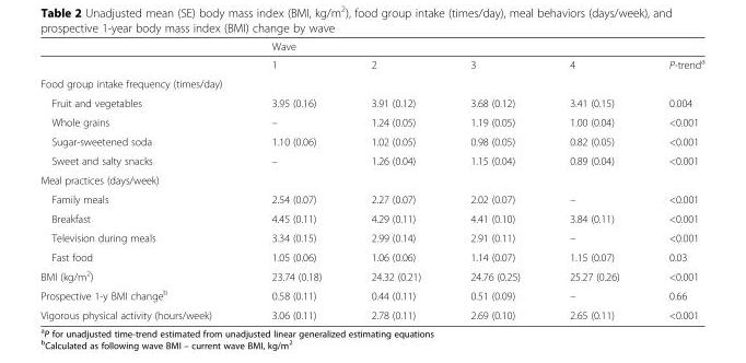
<table><thead><tr><td rowspan="2"></td><td colspan="4">Wave</td><td rowspan="2">P-trend<sup>a</sup></td></tr><tr><td>1</td><td>2</td><td>3</td><td>4</td></tr></thead><tbody><tr><td colspan="6">Food group intake frequency (times/day)</td></tr><tr><td>Fruit and vegetables</td><td>3.95 (0.16)</td><td>3.91 (0.12)</td><td>3.68 (0.12)</td><td>3.41 (0.15)</td><td>0.004</td></tr><tr><td>Whole grains</td><td>–</td><td>1.24 (0.05)</td><td>1.19 (0.05)</td><td>1.00 (0.04)</td><td>&lt;0.001</td></tr><tr><td>Sugar-sweetened soda</td><td>1.10 (0.06)</td><td>1.02 (0.05)</td><td>0.98 (0.05)</td><td>0.82 (0.05)</td><td>&lt;0.001</td></tr><tr><td>Sweet and salty snacks</td><td>–</td><td>1.26 (0.04)</td><td>1.15 (0.04)</td><td>0.89 (0.04)</td><td>&lt;0.001</td></tr><tr><td colspan="6">Meal practices (days/week)</td></tr><tr><td>Family meals</td><td>2.54 (0.07)</td><td>2.27 (0.07)</td><td>2.02 (0.07)</td><td>–</td><td>&lt;0.001</td></tr><tr><td>Breakfast</td><td>4.45 (0.11)</td><td>4.29 (0.11)</td><td>4.41 (0.10)</td><td>3.84 (0.11)</td><td>&lt;0.001</td></tr><tr><td>Television during meals</td><td>3.34 (0.15)</td><td>2.99 (0.14)</td><td>2.91 (0.11)</td><td>–</td><td>&lt;0.001</td></tr><tr><td>Fast food</td><td>1.05 (0.06)</td><td>1.06 (0.06)</td><td>1.14 (0.07)</td><td>1.15 (0.07)</td><td>0.03</td></tr><tr><td>BMI (kg/m<sup>2</sup>)</td><td>23.74 (0.18)</td><td>24.32 (0.21)</td><td>24.76 (0.25)</td><td>25.27 (0.26)</td><td>&lt;0.001</td></tr><tr><td>Prospective 1-y BMI change<sup>b</sup></td><td>0.58 (0.11)</td><td>0.44 (0.11)</td><td>0.51 (0.09)</td><td>–</td><td>0.66</td></tr><tr><td>Vigorous physical activity (hours/week)</td><td>3.06 (0.11)</td><td>2.78 (0.11)</td><td>2.69 (0.10)</td><td>2.65 (0.11)</td><td>&lt;0.001</td></tr></tbody></table>